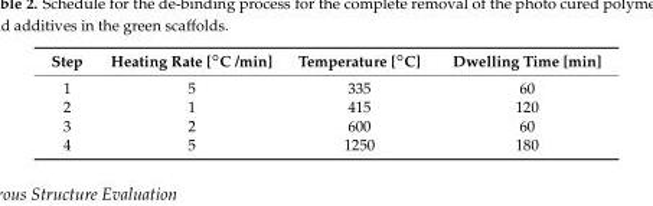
<table><thead><tr><td>Step</td><td>Heating Rate [◦C /min]</td><td>Temperature [◦C]</td><td>Dwelling Time [min]</td></tr></thead><tbody><tr><td>1</td><td>5</td><td>335</td><td>60</td></tr><tr><td>2</td><td>1</td><td>415</td><td>120</td></tr><tr><td>3</td><td>2</td><td>600</td><td>60</td></tr><tr><td>4</td><td>5</td><td>1250</td><td>180</td></tr></tbody></table>